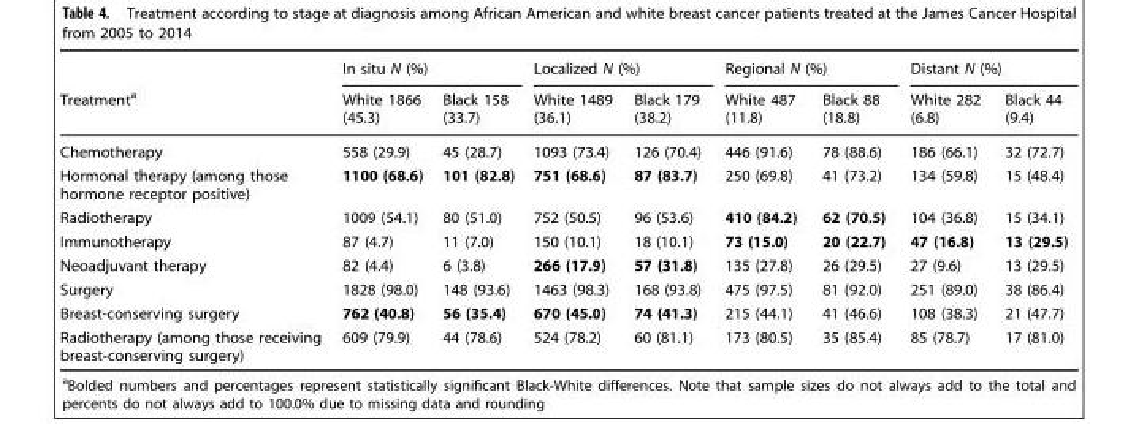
<table><thead><tr><td rowspan="2">Treatment<sup>a</sup></td><td colspan="2">In situ N (%)</td><td colspan="2">Localized N (%)</td><td colspan="2">Regional N (%)</td><td colspan="2">Distant N (%)</td></tr><tr><td>White 1866 (45.3)</td><td>Black 158 (33.7)</td><td>White 1489 (36.1)</td><td>Black 179 (38.2)</td><td>White 487 (11.8)</td><td>Black 88 (18.8)</td><td>White 282 (6.8)</td><td>Black 44 (9.4)</td></tr></thead><tbody><tr><td>Chemotherapy</td><td>558 (29.9)</td><td>45 (28.7)</td><td>1093 (73.4)</td><td>126 (70.4)</td><td>446 (91.6)</td><td>78 (88.6)</td><td>186 (66.1)</td><td>32 (72.7)</td></tr><tr><td>Hormonal therapy (among those hormone receptor positive)</td><td>1100 (68.6)</td><td>101 (82.8)</td><td>751 (68.6)</td><td>87 (83.7)</td><td>250 (69.8)</td><td>41 (73.2)</td><td>134 (59.8)</td><td>15 (48.4)</td></tr><tr><td>Radiotherapy</td><td>1009 (54.1)</td><td>80 (51.0)</td><td>752 (50.5)</td><td>96 (53.6)</td><td>410 (84.2)</td><td>62 (70.5)</td><td>104 (36.8)</td><td>15 (34.1)</td></tr><tr><td>Immunotherapy</td><td>87 (4.7)</td><td>11 (7.0)</td><td>150 (10.1)</td><td>18 (10.1)</td><td>73 (15.0)</td><td>20 (22.7)</td><td>47 (16.8)</td><td>13 (29.5)</td></tr><tr><td>Neoadjuvant therapy</td><td>82 (4.4)</td><td>6 (3.8)</td><td>266 (17.9)</td><td>57 (31.8)</td><td>135 (27.8)</td><td>26 (29.5)</td><td>27 (9.6)</td><td>13 (29.5)</td></tr><tr><td>Surgery</td><td>1828 (98.0)</td><td>148 (93.6)</td><td>1463 (98.3)</td><td>168 (93.8)</td><td>475 (97.5)</td><td>81 (92.0)</td><td>251 (89.0)</td><td>38 (86.4)</td></tr><tr><td>Breast-conserving surgery</td><td>762 (40.8)</td><td>56 (35.4)</td><td>670 (45.0)</td><td>74 (41.3)</td><td>215 (44.1)</td><td>41 (46.6)</td><td>108 (38.3)</td><td>21 (47.7)</td></tr><tr><td>Radiotherapy (among those receiving breast-conserving surgery)</td><td>609 (79.9)</td><td>44 (78.6)</td><td>524 (78.2)</td><td>60 (81.1)</td><td>173 (80.5)</td><td>35 (85.4)</td><td>85 (78.7)</td><td>17 (81.0)</td></tr></tbody></table>